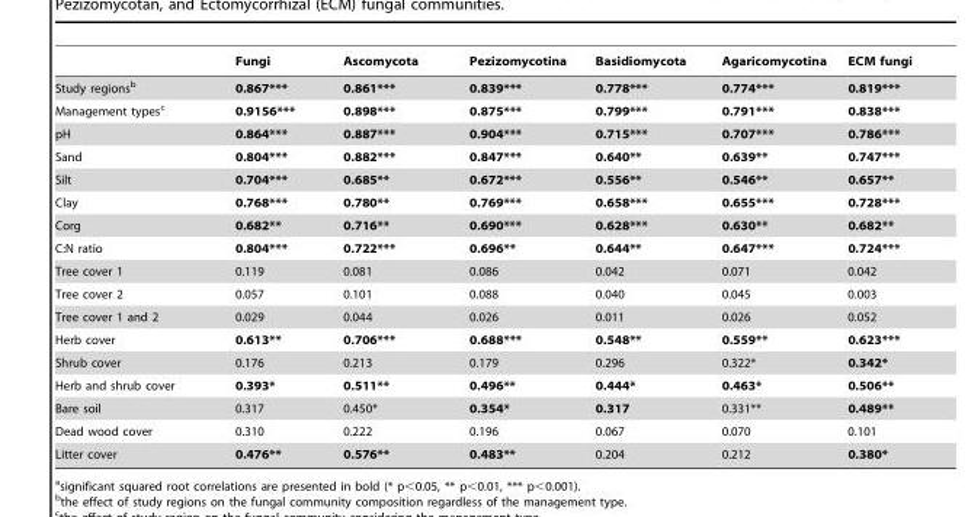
<table><thead><tr><td></td><td>Fungi</td><td>Ascomycota</td><td>Pezizomycotina</td><td>Basidiomycota</td><td>Agaricomycotina</td><td>ECM fungi</td></tr></thead><tbody><tr><td>Study regions<sup>b</sup></td><td>0.867***</td><td>0.861***</td><td>0.839***</td><td>0.778***</td><td>0.774***</td><td>0.819***</td></tr><tr><td>Management types<sup>c</sup></td><td>0.9156***</td><td>0.898***</td><td>0.875***</td><td>0.799***</td><td>0.791***</td><td>0.838***</td></tr><tr><td>pH</td><td>0.864***</td><td>0.887***</td><td>0.904***</td><td>0.715***</td><td>0.707***</td><td>0.786***</td></tr><tr><td>Sand</td><td>0.804***</td><td>0.882***</td><td>0.847***</td><td>0.640**</td><td>0.639**</td><td>0.747***</td></tr><tr><td>Silt</td><td>0.704***</td><td>0.685**</td><td>0.672***</td><td>0.556**</td><td>0.546**</td><td>0.657**</td></tr><tr><td>Clay</td><td>0.768***</td><td>0.780**</td><td>0.769***</td><td>0.658***</td><td>0.655***</td><td>0.728***</td></tr><tr><td>Corg</td><td>0.682**</td><td>0.716**</td><td>0.690***</td><td>0.628***</td><td>0.630**</td><td>0.682**</td></tr><tr><td>C:N ratio</td><td>0.804***</td><td>0.722***</td><td>0.696**</td><td>0.644**</td><td>0.647***</td><td>0.724***</td></tr><tr><td>Tree cover 1</td><td>0.119</td><td>0.081</td><td>0.086</td><td>0.042</td><td>0.071</td><td>0.042</td></tr><tr><td>Tree cover 2</td><td>0.057</td><td>0.101</td><td>0.088</td><td>0.040</td><td>0.045</td><td>0.003</td></tr><tr><td>Tree cover 1 and 2</td><td>0.029</td><td>0.044</td><td>0.026</td><td>0.011</td><td>0.026</td><td>0.052</td></tr><tr><td>Herb cover</td><td>0.613**</td><td>0.706***</td><td>0.688***</td><td>0.548**</td><td>0.559**</td><td>0.623***</td></tr><tr><td>Shrub cover</td><td>0.176</td><td>0.213</td><td>0.179</td><td>0.296</td><td>0.322*</td><td>0.342*</td></tr><tr><td>Herb and shrub cover</td><td>0.393*</td><td>0.511**</td><td>0.496**</td><td>0.444*</td><td>0.463*</td><td>0.506**</td></tr><tr><td>Bare soil</td><td>0.317</td><td>0.450*</td><td>0.354*</td><td>0.317</td><td>0.331**</td><td>0.489**</td></tr><tr><td>Dead wood cover</td><td>0.310</td><td>0.222</td><td>0.196</td><td>0.067</td><td>0.070</td><td>0.101</td></tr><tr><td>Litter cover</td><td>0.476**</td><td>0.576**</td><td>0.483**</td><td>0.204</td><td>0.212</td><td>0.380*</td></tr></tbody></table>